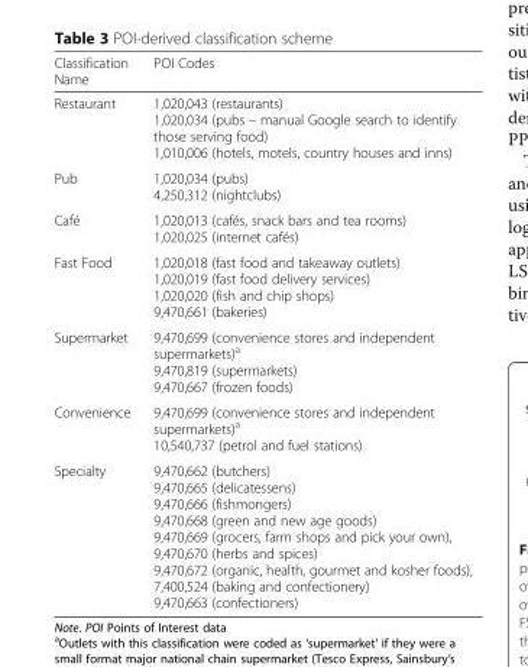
<table><thead><tr><td>Classification Name</td><td>POI Codes</td></tr></thead><tbody><tr><td>Restaurant</td><td>1,020,043 (restaurants) 1,020,034 (pubs – manual Google search to identify those serving food) 1,010,006 (hotels, motels, country houses and inns)</td></tr><tr><td>Pub</td><td>1,020,034 (pubs) 4,250,312 (nightclubs)</td></tr><tr><td>Café</td><td>1,020,013 (cafés, snack bars and tea rooms) 1,020,025 (internet cafés)</td></tr><tr><td>Fast Food</td><td>1,020,018 (fast food and takeaway outlets) 1,020,019 (fast food delivery services) 1,020,020 (fish and chip shops) 9,470,661 (bakeries)</td></tr><tr><td>Supermarket</td><td>9,470,699 (convenience stores and independent supermarkets)<sup>a</sup> 9,470,819 (supermarkets) 9,470,667 (frozen foods)</td></tr><tr><td>Convenience</td><td>9,470,699 (convenience stores and independent supermarkets)<sup>a</sup> 10,540,737 (petrol and fuel stations)</td></tr><tr><td>Specialty</td><td>9,470,662 (butchers) 9,470,665 (delicatessens) 9,470,666 (fishmongers) 9,470,668 (green and new age goods) 9,470,669 (grocers, farm shops and pick your own), 9,470,670 (herbs and spices) 9,470,672 (organic, health, gourmet and kosher foods), 7,400,524 (baking and confectionery) 9,470,663 (confectioners)</td></tr></tbody></table>